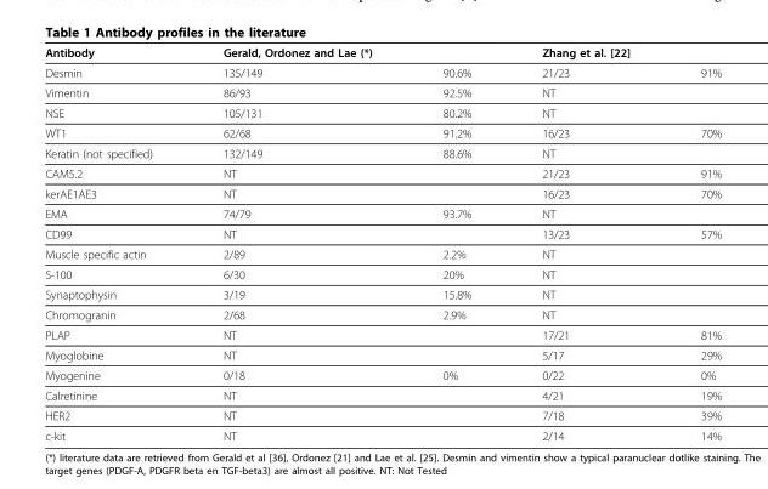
<table><thead><tr><td>Antibody</td><td>Gerald, Ordonez and Lae (*)</td><td></td><td>Zhang et al. [22]</td><td></td></tr></thead><tbody><tr><td>Desmin</td><td>135/149</td><td>90.6%</td><td>21/23</td><td>91%</td></tr><tr><td>Vimentin</td><td>86/93</td><td>92.5%</td><td>NT</td><td></td></tr><tr><td>NSE</td><td>105/131</td><td>80.2%</td><td>NT</td><td></td></tr><tr><td>WT1</td><td>62/68</td><td>91.2%</td><td>16/23</td><td>70%</td></tr><tr><td>Keratin (not specified)</td><td>132/149</td><td>88.6%</td><td>NT</td><td></td></tr><tr><td>CAM5.2</td><td>NT</td><td></td><td>21/23</td><td>91%</td></tr><tr><td>kerAE1AE3</td><td>NT</td><td></td><td>16/23</td><td>70%</td></tr><tr><td>EMA</td><td>74/79</td><td>93.7%</td><td>NT</td><td></td></tr><tr><td>CD99</td><td>NT</td><td></td><td>13/23</td><td>57%</td></tr><tr><td>Muscle specific actin</td><td>2/89</td><td>2.2%</td><td>NT</td><td></td></tr><tr><td>S-100</td><td>6/30</td><td>20%</td><td>NT</td><td></td></tr><tr><td>Synaptophysin</td><td>3/19</td><td>15.8%</td><td>NT</td><td></td></tr><tr><td>Chromogranin</td><td>2/68</td><td>2.9%</td><td>NT</td><td></td></tr><tr><td>PLAP</td><td>NT</td><td></td><td>17/21</td><td>81%</td></tr><tr><td>Myoglobine</td><td>NT</td><td></td><td>5/17</td><td>29%</td></tr><tr><td>Myogenine</td><td>0/18</td><td>0%</td><td>0/22</td><td>0%</td></tr><tr><td>Calretinine</td><td>NT</td><td></td><td>4/21</td><td>19%</td></tr><tr><td>HER2</td><td>NT</td><td></td><td>7/18</td><td>39%</td></tr><tr><td>c-kit</td><td>NT</td><td></td><td>2/14</td><td>14%</td></tr></tbody></table>